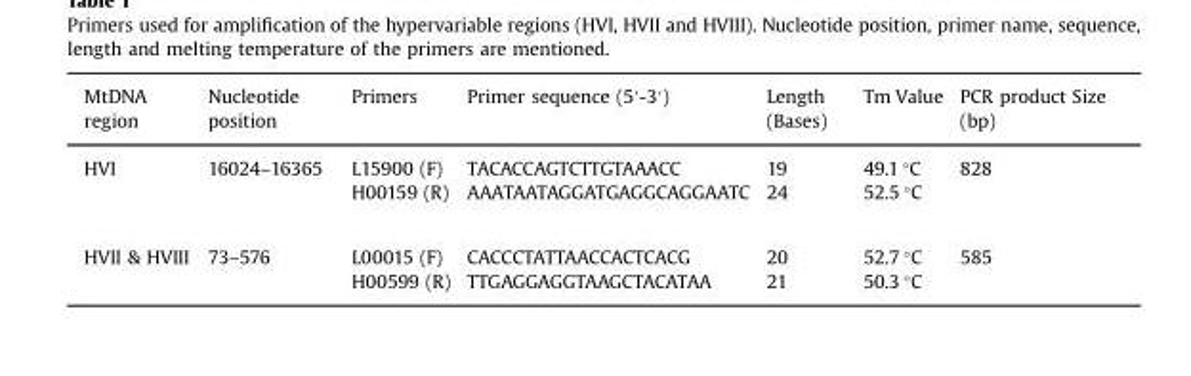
<table><thead><tr><td>MtDNA region</td><td>Nucleotide position</td><td>Primers</td><td>Primer sequence (5′-3′)</td><td>Length (Bases)</td><td>Tm Value</td><td>PCR product Size (bp)</td></tr></thead><tbody><tr><td rowspan="2">HVI</td><td rowspan="2">16024–16365</td><td>L15900 (F)</td><td>TACACCAGTCTTGTAAACC</td><td>19</td><td>49.1 °C</td><td rowspan="2">828</td></tr><tr><td>H00159 (R)</td><td>AAATAATAGGATGAGGCAGGAATC</td><td>24</td><td>52.5 °C</td></tr><tr><td rowspan="2">HVII &amp; HVIII</td><td rowspan="2">73–576</td><td>L00015 (F)</td><td>CACCCTATTAACCACTCACG</td><td>20</td><td>52.7 °C</td><td rowspan="2">585</td></tr><tr><td>H00599 (R)</td><td>TTGAGGAGGTAAGCTACATAA</td><td>21</td><td>50.3 °C</td></tr></tbody></table>